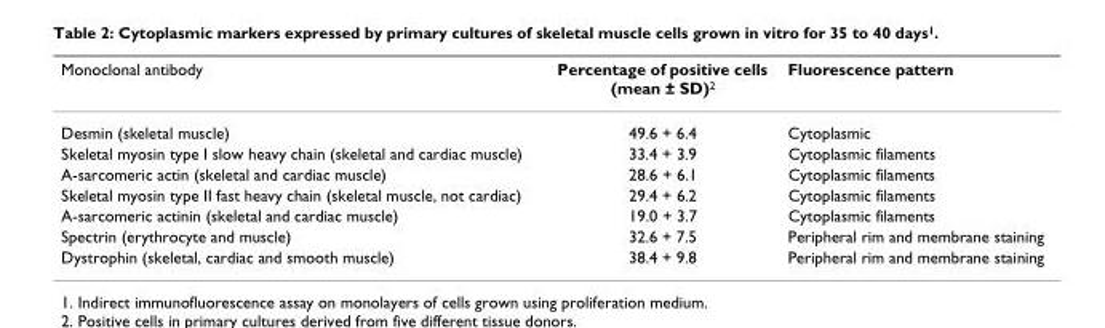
<table><thead><tr><td>Monoclonal antibody</td><td>Percentage of positive cells (mean ± SD)<sup>2</sup></td><td>Fluorescence pattern</td></tr></thead><tbody><tr><td>Desmin (skeletal muscle)</td><td>49.6 + 6.4</td><td>Cytoplasmic</td></tr><tr><td>Skeletal myosin type I slow heavy chain (skeletal and cardiac muscle)</td><td>33.4 + 3.9</td><td>Cytoplasmic filaments</td></tr><tr><td>A-sarcomeric actin (skeletal and cardiac muscle)</td><td>28.6 + 6.1</td><td>Cytoplasmic filaments</td></tr><tr><td>Skeletal myosin type II fast heavy chain (skeletal muscle, not cardiac)</td><td>29.4 + 6.2</td><td>Cytoplasmic filaments</td></tr><tr><td>A-sarcomeric actinin (skeletal and cardiac muscle)</td><td>19.0 + 3.7</td><td>Cytoplasmic filaments</td></tr><tr><td>Spectrin (erythrocyte and muscle)</td><td>32.6 + 7.5</td><td>Peripheral rim and membrane staining</td></tr><tr><td>Dystrophin (skeletal, cardiac and smooth muscle)</td><td>38.4 + 9.8</td><td>Peripheral rim and membrane staining</td></tr></tbody></table>